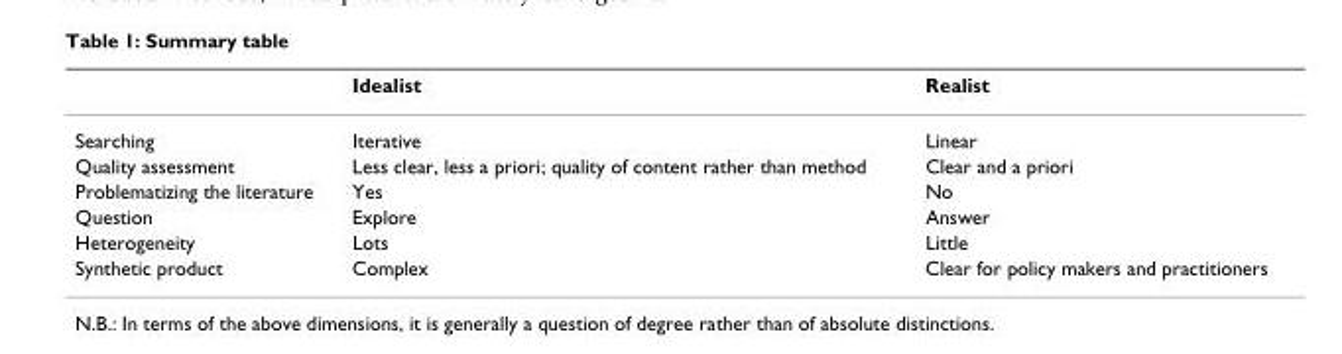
<table><thead><tr><td></td><td>Idealist</td><td>Realist</td></tr></thead><tbody><tr><td>Searching</td><td>Iterative</td><td>Linear</td></tr><tr><td>Quality assessment</td><td>Less clear, less a priori; quality of content rather than method</td><td>Clear and a priori</td></tr><tr><td>Problematizing the literature</td><td>Yes</td><td>No</td></tr><tr><td>Question</td><td>Explore</td><td>Answer</td></tr><tr><td>Heterogeneity</td><td>Lots</td><td>Little</td></tr><tr><td>Synthetic product</td><td>Complex</td><td>Clear for policy makers and practitioners</td></tr></tbody></table>